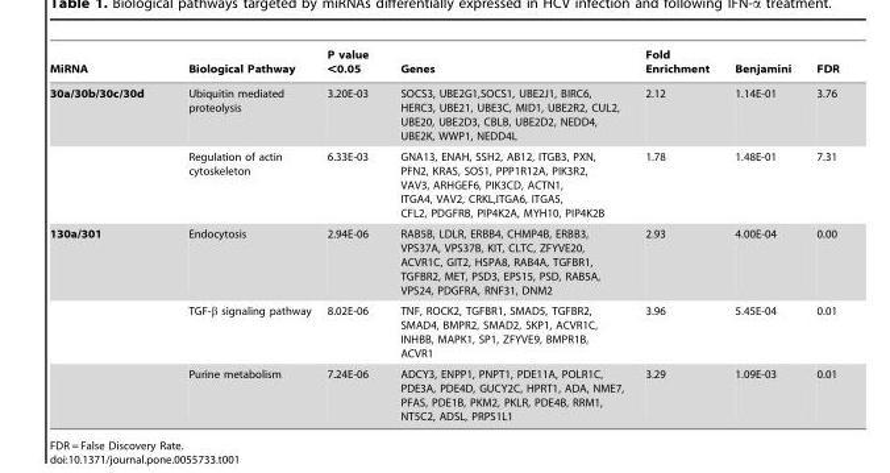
<table><thead><tr><td>MiRNA</td><td>Biological Pathway</td><td>P value &lt;0.05</td><td>Genes</td><td>Fold Enrichment</td><td>Benjamini</td><td>FDR</td></tr></thead><tbody><tr><td rowspan="2">30a/30b/30c/30d</td><td>Ubiquitin mediated proteolysis</td><td>3.20E-03</td><td>SOCS3, UBE2G1,SOCS1, UBE2J1, BIRC6, HERC3, UBE21, UBE3C, MID1, UBE2R2, CUL2, UBE20, UBE2D3, CBLB, UBE2D2, NEDD4, UBE2K, WWP1, NEDD4L</td><td>2.12</td><td>1.14E-01</td><td>3.76</td></tr><tr><td>Regulation of actin cytoskeleton</td><td>6.33E-03</td><td>GNA13, ENAH, SSH2, AB12, ITGB3, PXN, PFN2, KRAS, SOS1, PPP1R12A, PIK3R2, VAV3, ARHGEF6, PIK3CD, ACTN1, ITGA4, VAV2, CRKL,ITGA6, ITGA5, CFL2, PDGFRB, PIP4K2A, MYH10, PIP4K2B</td><td>1.78</td><td>1.48E-01</td><td>7.31</td></tr><tr><td rowspan="3">130a/301</td><td>Endocytosis</td><td>2.94E-06</td><td>RAB5B, LDLR, ERBB4, CHMP4B, ERBB3, VPS37A, VPS37B, KIT, CLTC, ZFYVE20, ACVR1C, GIT2, HSPA8, RAB4A, TGFBR1, TGFBR2, MET, PSD3, EPS15, PSD, RAB5A, VPS24, PDGFRA, RNF31, DNM2</td><td>2.93</td><td>4.00E-04</td><td>0.00</td></tr><tr><td>TGF-β signaling pathway</td><td>8.02E-06</td><td>TNF, ROCK2, TGFBR1, SMAD5, TGFBR2, SMAD4, BMPR2, SMAD2, SKP1, ACVR1C, INHBB, MAPK1, SP1, ZFYVE9, BMPR1B, ACVR1</td><td>3.96</td><td>5.45E-04</td><td>0.01</td></tr><tr><td>Purine metabolism</td><td>7.24E-06</td><td>ADCY3, ENPP1, PNPT1, PDE11A, POLR1C, PDE3A, PDE4D, GUCY2C, HPRT1, ADA, NME7, PFAS, PDE1B, PKM2, PKLR, PDE4B, RRM1, NT5C2, ADSL, PRPS1L1</td><td>3.29</td><td>1.09E-03</td><td>0.01</td></tr></tbody></table>